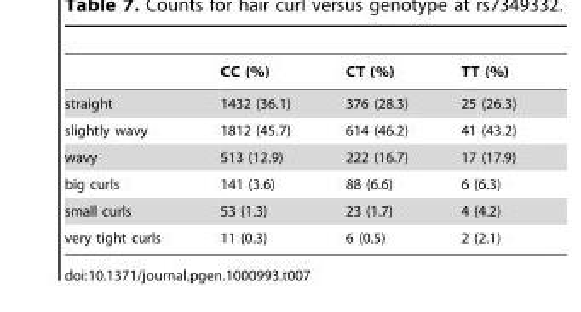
<table><thead><tr><td></td><td>CC (%)</td><td>CT (%)</td><td>TT (%)</td></tr></thead><tbody><tr><td>straight</td><td>1432 (36.1)</td><td>376 (28.3)</td><td>25 (26.3)</td></tr><tr><td>slightly wavy</td><td>1812 (45.7)</td><td>614 (46.2)</td><td>41 (43.2)</td></tr><tr><td>wavy</td><td>513 (12.9)</td><td>222 (16.7)</td><td>17 (17.9)</td></tr><tr><td>big curls</td><td>141 (3.6)</td><td>88 (6.6)</td><td>6 (6.3)</td></tr><tr><td>small curls</td><td>53 (1.3)</td><td>23 (1.7)</td><td>4 (4.2)</td></tr><tr><td>very tight curls</td><td>11 (0.3)</td><td>6 (0.5)</td><td>2 (2.1)</td></tr></tbody></table>